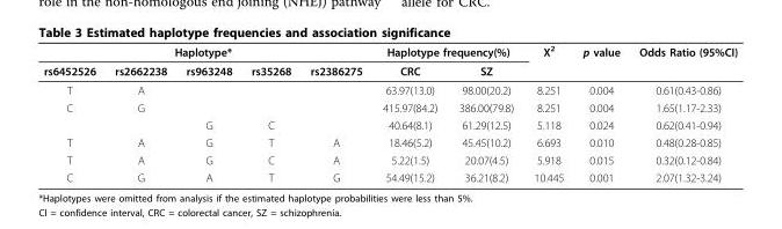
<table><thead><tr><td colspan="5">Haplotype*</td><td colspan="2">Haplotype frequency(%)</td><td rowspan="2">X<sup>2</sup></td><td rowspan="2">p value</td><td rowspan="2">Odds Ratio (95%CI)</td></tr><tr><td>rs6452526</td><td>rs2662238</td><td>rs963248</td><td>rs35268</td><td>rs2386275</td><td>CRC</td><td>SZ</td></tr></thead><tbody><tr><td>T</td><td>A</td><td></td><td></td><td></td><td>63.97(13.0)</td><td>98.00(20.2)</td><td>8.251</td><td>0.004</td><td>0.61(0.43-0.86)</td></tr><tr><td rowspan="2">C</td><td>G</td><td></td><td></td><td></td><td>415.97(84.2)</td><td>386.00(79.8)</td><td>8.251</td><td>0.004</td><td>1.65(1.17-2.33)</td></tr><tr><td></td><td>G</td><td>C</td><td></td><td>40.64(8.1)</td><td>61.29(12.5)</td><td>5.118</td><td>0.024</td><td>0.62(0.41-0.94)</td></tr><tr><td>T</td><td>A</td><td>G</td><td>T</td><td>A</td><td>18.46(5.2)</td><td>45.45(10.2)</td><td>6.693</td><td>0.010</td><td>0.48(0.28-0.85)</td></tr><tr><td>T</td><td>A</td><td>G</td><td>C</td><td>A</td><td>5.22(1.5)</td><td>20.07(4.5)</td><td>5.918</td><td>0.015</td><td>0.32(0.12-0.84)</td></tr><tr><td>C</td><td>G</td><td>A</td><td>T</td><td>G</td><td>54.49(15.2)</td><td>36.21(8.2)</td><td>10.445</td><td>0.001</td><td>2.07(1.32-3.24)</td></tr></tbody></table>